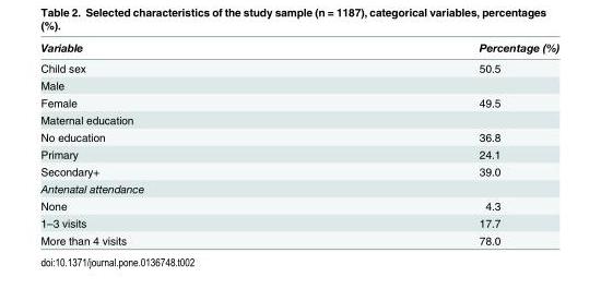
<table><thead><tr><td>Variable</td><td>Percentage (%)</td></tr></thead><tbody><tr><td>Child sex</td><td>50.5</td></tr><tr><td colspan="2">Male</td></tr><tr><td>Female</td><td>49.5</td></tr><tr><td colspan="2">Maternal education</td></tr><tr><td>No education</td><td>36.8</td></tr><tr><td>Primary</td><td>24.1</td></tr><tr><td>Secondary+</td><td>39.0</td></tr><tr><td colspan="2">Antenatal attendance</td></tr><tr><td>None</td><td>4.3</td></tr><tr><td>1–3 visits</td><td>17.7</td></tr><tr><td>More than 4 visits</td><td>78.0</td></tr></tbody></table>